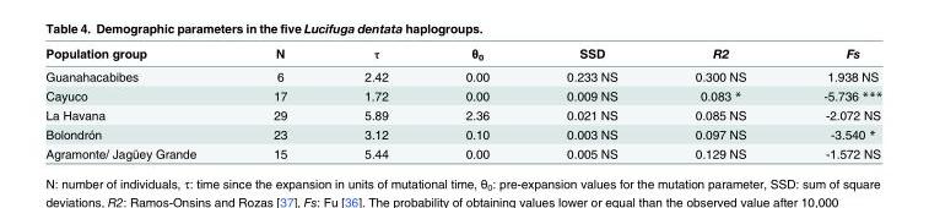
<table><thead><tr><td>Population group</td><td>N</td><td>τ</td><td>θ<sub>0</sub></td><td>SSD</td><td>R2</td><td>Fs</td></tr></thead><tbody><tr><td>Guanahacabibes</td><td>6</td><td>2.42</td><td>0.00</td><td>0.233 NS</td><td>0.300 NS</td><td>1.938 NS</td></tr><tr><td>Cayuco</td><td>17</td><td>1.72</td><td>0.00</td><td>0.009 NS</td><td>0.083 *</td><td>-5.736 ***</td></tr><tr><td>La Havana</td><td>29</td><td>5.89</td><td>2.36</td><td>0.021 NS</td><td>0.085 NS</td><td>-2.072 NS</td></tr><tr><td>Bolondrón</td><td>23</td><td>3.12</td><td>0.10</td><td>0.003 NS</td><td>0.097 NS</td><td>-3.540 *</td></tr><tr><td>Agramonte/ Jagüey Grande</td><td>15</td><td>5.44</td><td>0.00</td><td>0.005 NS</td><td>0.129 NS</td><td>-1.572 NS</td></tr></tbody></table>